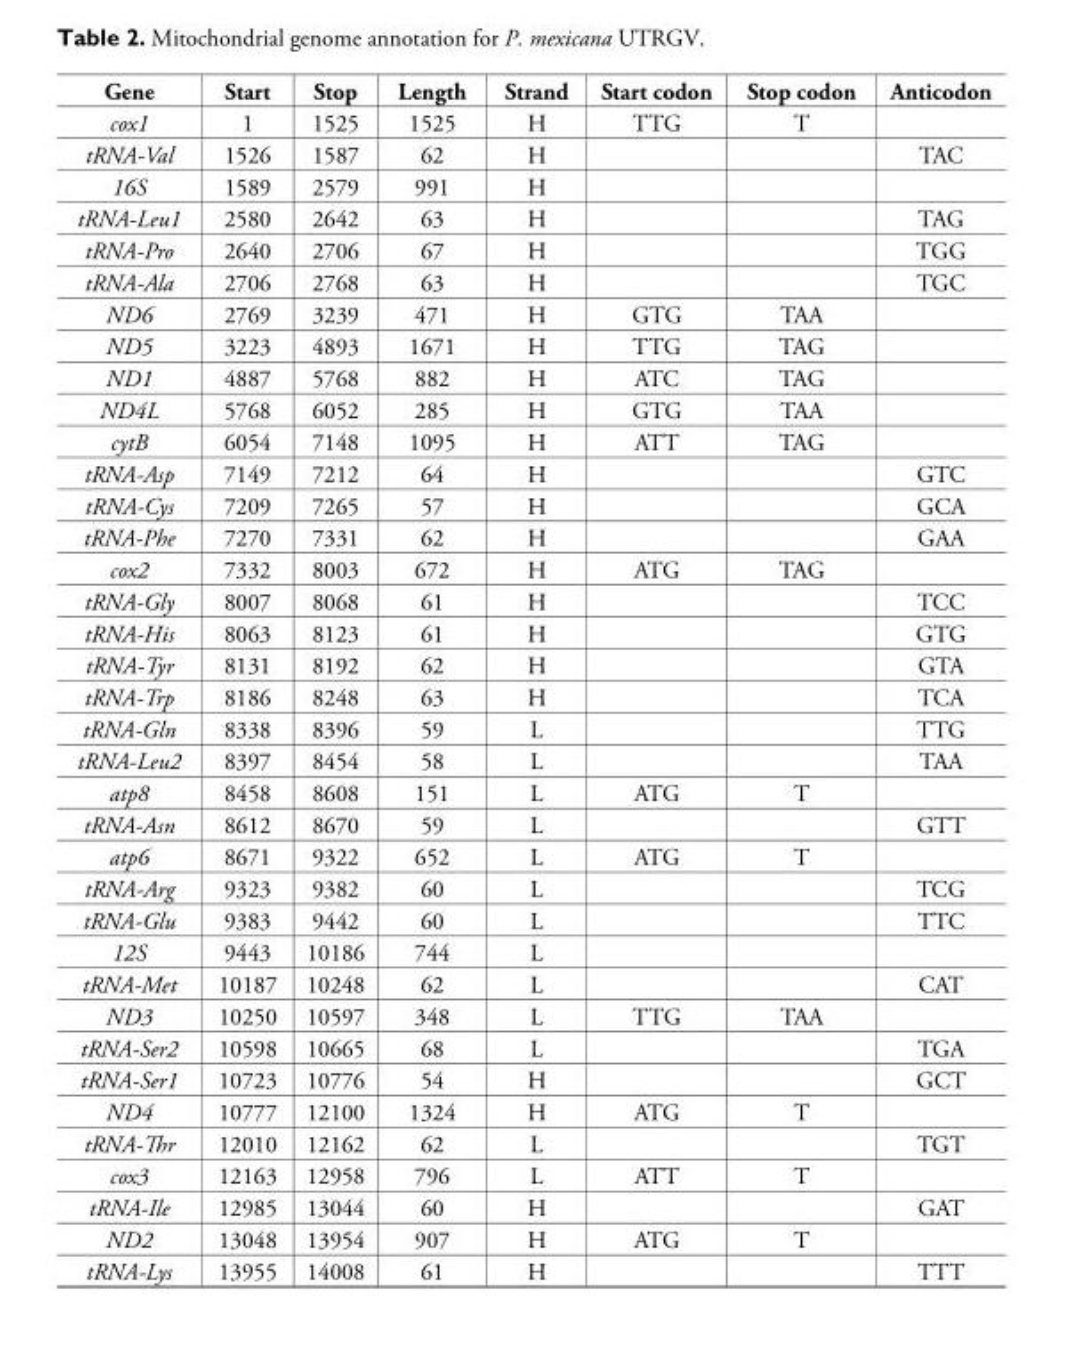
<table><thead><tr><td>Gene</td><td>Start</td><td>Stop</td><td>Length</td><td>Strand</td><td>Start codon</td><td>Stop codon</td><td>Anticodon</td></tr></thead><tbody><tr><td>cox1</td><td>1</td><td>1525</td><td>1525</td><td>H</td><td>TTG</td><td>T</td><td></td></tr><tr><td>tRNA-Val</td><td>1526</td><td>1587</td><td>62</td><td>H</td><td></td><td></td><td>TAC</td></tr><tr><td>16S</td><td>1589</td><td>2579</td><td>991</td><td>H</td><td></td><td></td><td></td></tr><tr><td>tRNA-Leu1</td><td>2580</td><td>2642</td><td>63</td><td>H</td><td></td><td></td><td>TAG</td></tr><tr><td>tRNA-Pro</td><td>2640</td><td>2706</td><td>67</td><td>H</td><td></td><td></td><td>TGG</td></tr><tr><td>tRNA-Ala</td><td>2706</td><td>2768</td><td>63</td><td>H</td><td></td><td></td><td>TGC</td></tr><tr><td>ND6</td><td>2769</td><td>3239</td><td>471</td><td>H</td><td>GTG</td><td>TAA</td><td></td></tr><tr><td>ND5</td><td>3223</td><td>4893</td><td>1671</td><td>H</td><td>TTG</td><td>TAG</td><td></td></tr><tr><td>ND1</td><td>4887</td><td>5768</td><td>882</td><td>H</td><td>ATC</td><td>TAG</td><td></td></tr><tr><td>ND4L</td><td>5768</td><td>6052</td><td>285</td><td>H</td><td>GTG</td><td>TAA</td><td></td></tr><tr><td>cytB</td><td>6054</td><td>7148</td><td>1095</td><td>H</td><td>ATT</td><td>TAG</td><td></td></tr><tr><td>tRNA-Asp</td><td>7149</td><td>7212</td><td>64</td><td>H</td><td></td><td></td><td>GTC</td></tr><tr><td>tRNA-Cys</td><td>7209</td><td>7265</td><td>57</td><td>H</td><td></td><td></td><td>GCA</td></tr><tr><td>tRNA-Phe</td><td>7270</td><td>7331</td><td>62</td><td>H</td><td></td><td></td><td>GAA</td></tr><tr><td>cox2</td><td>7332</td><td>8003</td><td>672</td><td>H</td><td>ATG</td><td>TAG</td><td></td></tr><tr><td>tRNA-Gly</td><td>8007</td><td>8068</td><td>61</td><td>H</td><td></td><td></td><td>TCC</td></tr><tr><td>tRNA-His</td><td>8063</td><td>8123</td><td>61</td><td>H</td><td></td><td></td><td>GTG</td></tr><tr><td>tRNA-Tyr</td><td>8131</td><td>8192</td><td>62</td><td>H</td><td></td><td></td><td>GTA</td></tr><tr><td>tRNA-Trp</td><td>8186</td><td>8248</td><td>63</td><td>H</td><td></td><td></td><td>TCA</td></tr><tr><td>tRNA-Gln</td><td>8338</td><td>8396</td><td>59</td><td>L</td><td></td><td></td><td>TTG</td></tr><tr><td>tRNA-Leu2</td><td>8397</td><td>8454</td><td>58</td><td>L</td><td></td><td></td><td>TAA</td></tr><tr><td>atp8</td><td>8458</td><td>8608</td><td>151</td><td>L</td><td>ATG</td><td>T</td><td></td></tr><tr><td>tRNA-Asn</td><td>8612</td><td>8670</td><td>59</td><td>L</td><td></td><td></td><td>GTT</td></tr><tr><td>atp6</td><td>8671</td><td>9322</td><td>652</td><td>L</td><td>ATG</td><td>T</td><td></td></tr><tr><td>tRNA-Arg</td><td>9323</td><td>9382</td><td>60</td><td>L</td><td></td><td></td><td>TCG</td></tr><tr><td>tRNA-Glu</td><td>9383</td><td>9442</td><td>60</td><td>L</td><td></td><td></td><td>TTC</td></tr><tr><td>12S</td><td>9443</td><td>10186</td><td>744</td><td>L</td><td></td><td></td><td></td></tr><tr><td>tRNA-Met</td><td>10187</td><td>10248</td><td>62</td><td>L</td><td></td><td></td><td>CAT</td></tr><tr><td>ND3</td><td>10250</td><td>10597</td><td>348</td><td>L</td><td>TTG</td><td>TAA</td><td></td></tr><tr><td>tRNA-Ser2</td><td>10598</td><td>10665</td><td>68</td><td>L</td><td></td><td></td><td>TGA</td></tr><tr><td>tRNA-Ser1</td><td>10723</td><td>10776</td><td>54</td><td>H</td><td></td><td></td><td>GCT</td></tr><tr><td>ND4</td><td>10777</td><td>12100</td><td>1324</td><td>H</td><td>ATG</td><td>T</td><td></td></tr><tr><td>tRNA-Thr</td><td>12010</td><td>12162</td><td>62</td><td>L</td><td></td><td></td><td>TGT</td></tr><tr><td>cox3</td><td>12163</td><td>12958</td><td>796</td><td>L</td><td>ATT</td><td>T</td><td></td></tr><tr><td>tRNA-Ile</td><td>12985</td><td>13044</td><td>60</td><td>H</td><td></td><td></td><td>GAT</td></tr><tr><td>ND2</td><td>13048</td><td>13954</td><td>907</td><td>H</td><td>ATG</td><td>T</td><td></td></tr><tr><td>tRNA-Lys</td><td>13955</td><td>14008</td><td>61</td><td>H</td><td></td><td></td><td>TTT</td></tr></tbody></table>